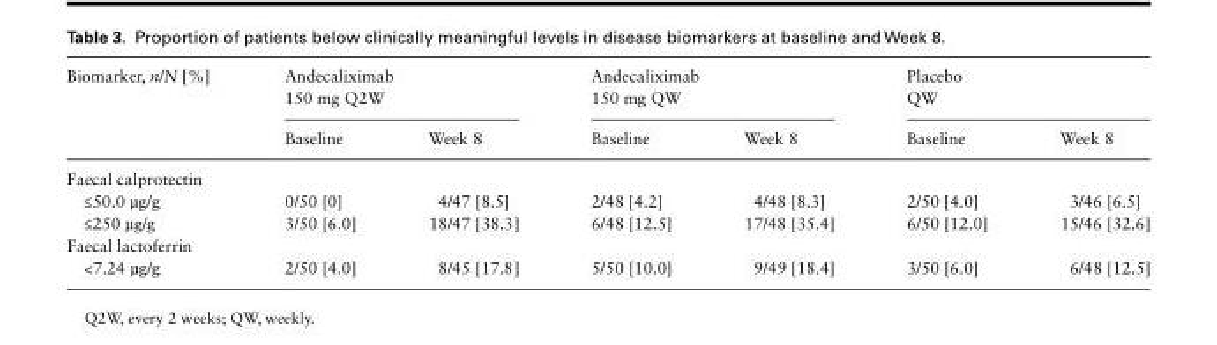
<table><thead><tr><td rowspan="2">Biomarker, n/N [%]</td><td colspan="2">Andecaliximab 150 mg Q2W</td><td colspan="2">Andecaliximab 150 mg QW</td><td colspan="2">Placebo QW</td></tr><tr><td>Baseline</td><td>Week 8</td><td>Baseline</td><td>Week 8</td><td>Baseline</td><td>Week 8</td></tr></thead><tbody><tr><td colspan="7">Faecal calprotectin</td></tr><tr><td>≤50.0 µg/g</td><td>0/50 [0]</td><td>4/47 [8.5]</td><td>2/48 [4.2]</td><td>4/48 [8.3]</td><td>2/50 [4.0]</td><td>3/46 [6.5]</td></tr><tr><td>≤250 µg/g</td><td>3/50 [6.0]</td><td>18/47 [38.3]</td><td>6/48 [12.5]</td><td>17/48 [35.4]</td><td>6/50 [12.0]</td><td>15/46 [32.6]</td></tr><tr><td colspan="7">Faecal lactoferrin</td></tr><tr><td>&lt;7.24 µg/g</td><td>2/50 [4.0]</td><td>8/45 [17.8]</td><td>5/50 [10.0]</td><td>9/49 [18.4]</td><td>3/50 [6.0]</td><td>6/48 [12.5]</td></tr></tbody></table>